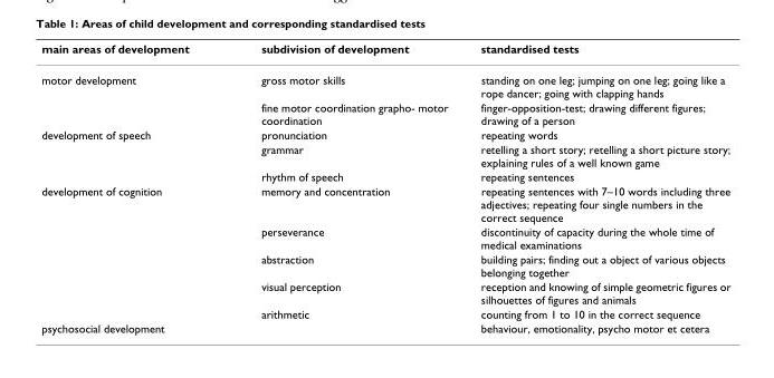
<table><thead><tr><td>main areas of development</td><td>subdivision of development</td><td>standardised tests</td></tr></thead><tbody><tr><td rowspan="2">motor development</td><td>gross motor skills</td><td>standing on one leg; jumping on one leg; going like a rope dancer; going with clapping hands</td></tr><tr><td>fine motor coordination grapho- motor coordination</td><td>finger-opposition-test; drawing different figures; drawing of a person</td></tr><tr><td rowspan="3">development of speech</td><td>pronunciation</td><td>repeating words</td></tr><tr><td>grammar</td><td>retelling a short story; retelling a short picture story; explaining rules of a well known game</td></tr><tr><td>rhythm of speech</td><td>repeating sentences</td></tr><tr><td rowspan="5">development of cognition</td><td>memory and concentration</td><td>repeating sentences with 7–10 words including three adjectives; repeating four single numbers in the correct sequence</td></tr><tr><td>perseverance</td><td>discontinuity of capacity during the whole time of medical examinations</td></tr><tr><td>abstraction</td><td>building pairs; finding out a object of various objects belonging together</td></tr><tr><td>visual perception</td><td>reception and knowing of simple geometric figures or silhouettes of figures and animals</td></tr><tr><td>arithmetic</td><td>counting from 1 to 10 in the correct sequence</td></tr><tr><td>psychosocial development</td><td></td><td>behaviour, emotionality, psycho motor et cetera</td></tr></tbody></table>